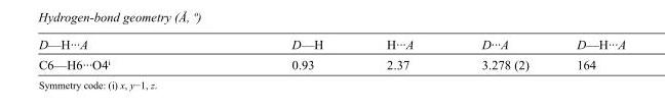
<table><tbody><tr><td>D—H···A</td><td>D—H</td><td>H···A</td><td>D···A</td><td>D—H···A</td></tr><tr><td>C6—H6···O4<sup>i</sup></td><td>0.93</td><td>2.37</td><td>3.278 (2)</td><td>164</td></tr></tbody></table>